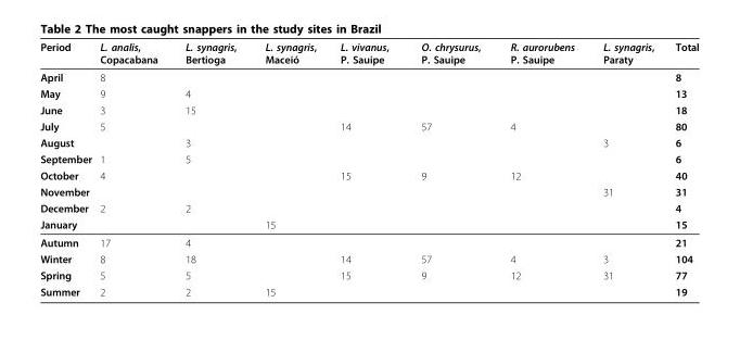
<table><thead><tr><td>Period</td><td>L. analis, Copacabana</td><td>L. synagris, Bertioga</td><td>L. synagris, Maceió</td><td>L. vivanus, P. Sauipe</td><td>O. chrysurus, P. Sauipe</td><td>R. aurorubens P. Sauipe</td><td>L. synagris, Paraty</td><td>Total</td></tr></thead><tbody><tr><td>April</td><td>8</td><td></td><td></td><td></td><td></td><td></td><td></td><td>8</td></tr><tr><td>May</td><td>9</td><td>4</td><td></td><td></td><td></td><td></td><td></td><td>13</td></tr><tr><td>June</td><td>3</td><td>15</td><td></td><td></td><td></td><td></td><td></td><td>18</td></tr><tr><td>July</td><td>5</td><td></td><td></td><td>14</td><td>57</td><td>4</td><td></td><td>80</td></tr><tr><td>August</td><td></td><td>3</td><td></td><td></td><td></td><td></td><td>3</td><td>6</td></tr><tr><td>September</td><td>1</td><td>5</td><td></td><td></td><td></td><td></td><td></td><td>6</td></tr><tr><td>October</td><td>4</td><td></td><td></td><td>15</td><td>9</td><td>12</td><td></td><td>40</td></tr><tr><td>November</td><td></td><td></td><td></td><td></td><td></td><td></td><td>31</td><td>31</td></tr><tr><td>December</td><td>2</td><td>2</td><td></td><td></td><td></td><td></td><td></td><td>4</td></tr><tr><td>January</td><td></td><td></td><td>15</td><td></td><td></td><td></td><td></td><td>15</td></tr><tr><td>Autumn</td><td>17</td><td>4</td><td></td><td></td><td></td><td></td><td></td><td>21</td></tr><tr><td>Winter</td><td>8</td><td>18</td><td></td><td>14</td><td>57</td><td>4</td><td>3</td><td>104</td></tr><tr><td>Spring</td><td>5</td><td>5</td><td></td><td>15</td><td>9</td><td>12</td><td>31</td><td>77</td></tr><tr><td>Summer</td><td>2</td><td>2</td><td>15</td><td></td><td></td><td></td><td></td><td>19</td></tr></tbody></table>